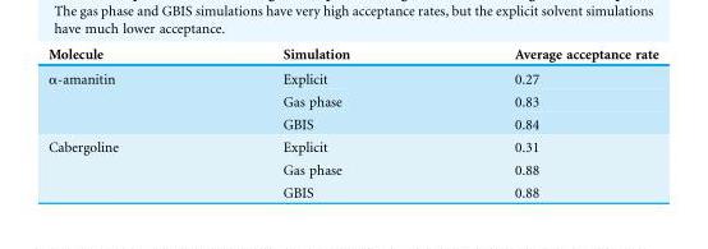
<table><thead><tr><td>Molecule</td><td>Simulation</td><td>Average acceptance rate</td></tr></thead><tbody><tr><td rowspan="3">α-amanitin</td><td>Explicit</td><td>0.27</td></tr><tr><td>Gas phase</td><td>0.83</td></tr><tr><td>GBIS</td><td>0.84</td></tr><tr><td rowspan="3">Cabergoline</td><td>Explicit</td><td>0.31</td></tr><tr><td>Gas phase</td><td>0.88</td></tr><tr><td>GBIS</td><td>0.88</td></tr></tbody></table>